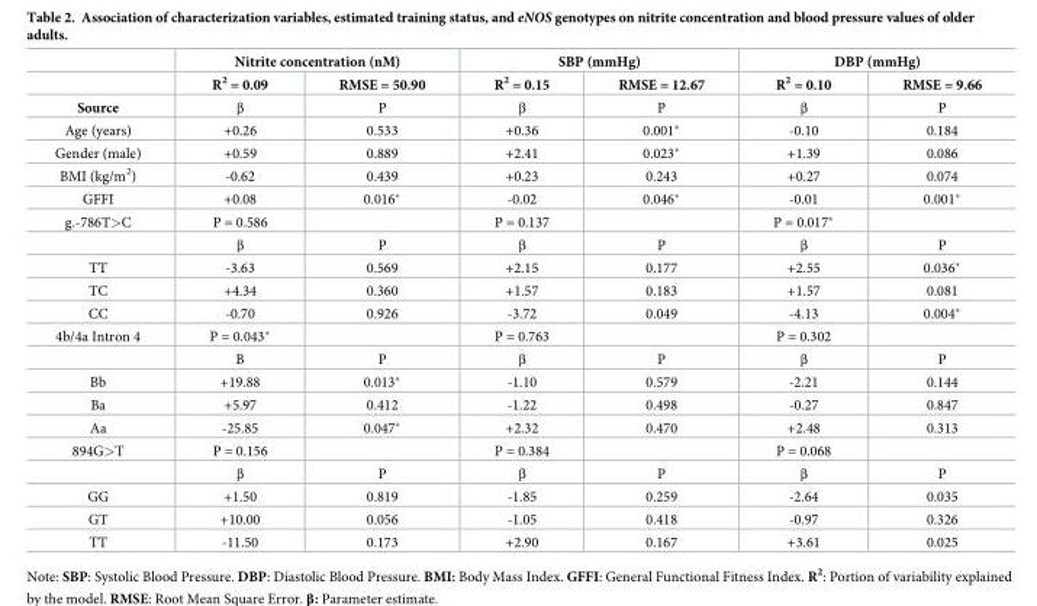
<table><thead><tr><td rowspan="2"></td><td colspan="2">Nitrite concentration (nM)</td><td colspan="2">SBP (mmHg)</td><td colspan="2">DBP (mmHg)</td></tr><tr><td>R<sup>2</sup> = 0.09</td><td>RMSE = 50.90</td><td>R<sup>2</sup> = 0.15</td><td>RMSE = 12.67</td><td>R<sup>2</sup> = 0.10</td><td>RMSE = 9.66</td></tr></thead><tbody><tr><td>Source</td><td>β</td><td>P</td><td>β</td><td>P</td><td>β</td><td>P</td></tr><tr><td>Age (years)</td><td>+0.26</td><td>0.533</td><td>+0.36</td><td>0.001*</td><td>-0.10</td><td>0.184</td></tr><tr><td>Gender (male)</td><td>+0.59</td><td>0.889</td><td>+2.41</td><td>0.023*</td><td>+1.39</td><td>0.086</td></tr><tr><td>BMI (kg/m<sup>2</sup>)</td><td>-0.62</td><td>0.439</td><td>+0.23</td><td>0.243</td><td>+0.27</td><td>0.074</td></tr><tr><td>GFFI</td><td>+0.08</td><td>0.016*</td><td>-0.02</td><td>0.046*</td><td>-0.01</td><td>0.001*</td></tr><tr><td rowspan="2">g.-786T&gt;C</td><td>P = 0.586</td><td></td><td>P = 0.137</td><td></td><td>P = 0.017*</td><td></td></tr><tr><td>β</td><td>P</td><td>β</td><td>P</td><td>β</td><td>P</td></tr><tr><td>TT</td><td>-3.63</td><td>0.569</td><td>+2.15</td><td>0.177</td><td>+2.55</td><td>0.036*</td></tr><tr><td>TC</td><td>+4.34</td><td>0.360</td><td>+1.57</td><td>0.183</td><td>+1.57</td><td>0.081</td></tr><tr><td>CC</td><td>-0.70</td><td>0.926</td><td>-3.72</td><td>0.049</td><td>-4.13</td><td>0.004*</td></tr><tr><td rowspan="2">4b/4a Intron 4</td><td>P = 0.043*</td><td></td><td>P = 0.763</td><td></td><td>P = 0.302</td><td></td></tr><tr><td>Β</td><td>P</td><td>β</td><td>P</td><td>β</td><td>P</td></tr><tr><td>Bb</td><td>+19.88</td><td>0.013*</td><td>-1.10</td><td>0.579</td><td>-2.21</td><td>0.144</td></tr><tr><td>Ba</td><td>+5.97</td><td>0.412</td><td>-1.22</td><td>0.498</td><td>-0.27</td><td>0.847</td></tr><tr><td>Aa</td><td>-25.85</td><td>0.047*</td><td>+2.32</td><td>0.470</td><td>+2.48</td><td>0.313</td></tr><tr><td rowspan="2">894G&gt;T</td><td>P = 0.156</td><td></td><td>P = 0.384</td><td></td><td>P = 0.068</td><td></td></tr><tr><td>β</td><td>P</td><td>β</td><td>P</td><td>β</td><td>P</td></tr><tr><td>GG</td><td>+1.50</td><td>0.819</td><td>-1.85</td><td>0.259</td><td>-2.64</td><td>0.035</td></tr><tr><td>GT</td><td>+10.00</td><td>0.056</td><td>-1.05</td><td>0.418</td><td>-0.97</td><td>0.326</td></tr><tr><td>TT</td><td>-11.50</td><td>0.173</td><td>+2.90</td><td>0.167</td><td>+3.61</td><td>0.025</td></tr></tbody></table>